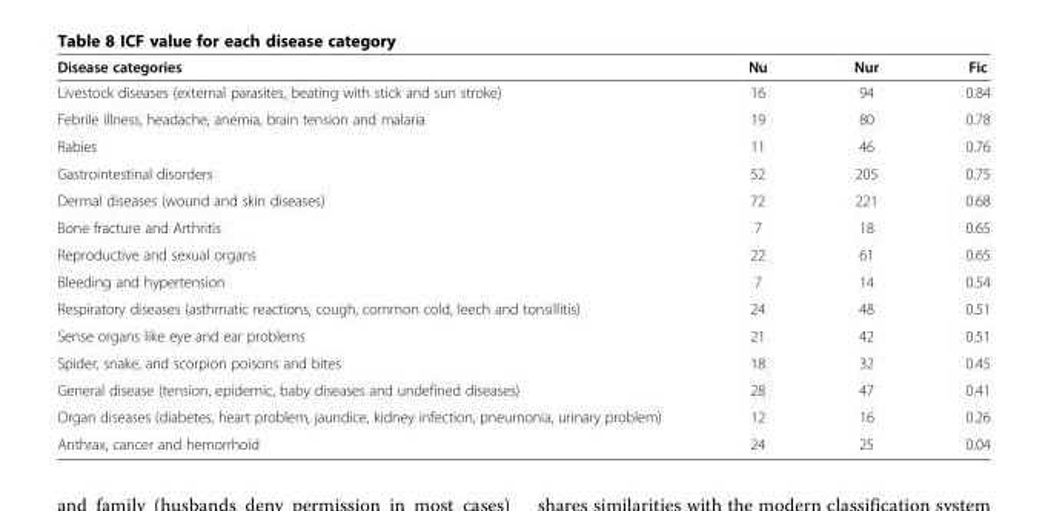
<table><thead><tr><td>Disease categories</td><td>Nu</td><td>Nur</td><td>Fic</td></tr></thead><tbody><tr><td>Livestock diseases (external parasites, beating with stick and sun stroke)</td><td>16</td><td>94</td><td>0.84</td></tr><tr><td>Febrile illness, headache, anemia, brain tension and malaria</td><td>19</td><td>80</td><td>0.78</td></tr><tr><td>Rabies</td><td>11</td><td>46</td><td>0.76</td></tr><tr><td>Gastrointestinal disorders</td><td>52</td><td>205</td><td>0.75</td></tr><tr><td>Dermal diseases (wound and skin diseases)</td><td>72</td><td>221</td><td>0.68</td></tr><tr><td>Bone fracture and Arthritis</td><td>7</td><td>18</td><td>0.65</td></tr><tr><td>Reproductive and sexual organs</td><td>22</td><td>61</td><td>0.65</td></tr><tr><td>Bleeding and hypertension</td><td>7</td><td>14</td><td>0.54</td></tr><tr><td>Respiratory diseases (asthmatic reactions, cough, common cold, leech and tonsillitis)</td><td>24</td><td>48</td><td>0.51</td></tr><tr><td>Sense organs like eye and ear problems</td><td>21</td><td>42</td><td>0.51</td></tr><tr><td>Spider, snake, and scorpion poisons and bites</td><td>18</td><td>32</td><td>0.45</td></tr><tr><td>General disease (tension, epidemic, baby diseases and undefined diseases)</td><td>28</td><td>47</td><td>0.41</td></tr><tr><td>Organ diseases (diabetes, heart problem, jaundice, kidney infection, pneumonia, urinary problem)</td><td>12</td><td>16</td><td>0.26</td></tr><tr><td>Anthrax, cancer and hemorrhoid</td><td>24</td><td>25</td><td>0.04</td></tr></tbody></table>